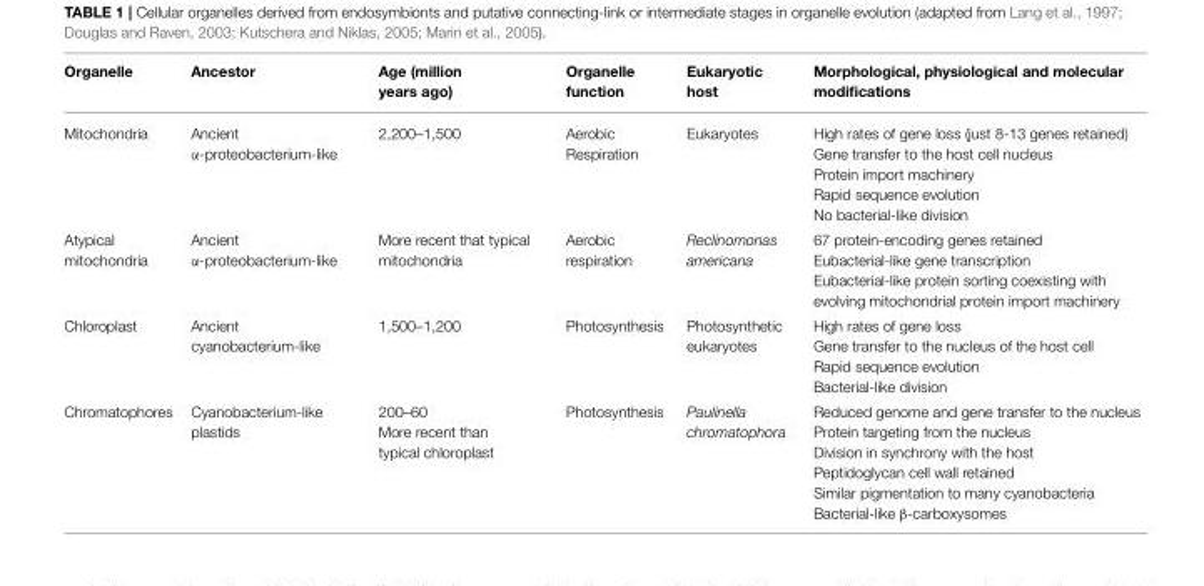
<table><thead><tr><td>Organelle</td><td>Ancestor</td><td>Age (million years ago)</td><td>Organelle function</td><td>Eukaryotic host</td><td>Morphological, physiological and molecular modifications</td></tr></thead><tbody><tr><td>Mitochondria</td><td>Ancient α-proteobacterium-like</td><td>2,200–1,500</td><td>Aerobic Respiration</td><td>Eukaryotes</td><td>High rates of gene loss (just 8-13 genes retained) Gene transfer to the host cell nucleus Protein import machinery Rapid sequence evolution No bacterial-like division</td></tr><tr><td>Atypical mitochondria</td><td>Ancient α-proteobacterium-like</td><td>More recent that typical mitochondria</td><td>Aerobic respiration</td><td>Reclinomonas americana</td><td>67 protein-encoding genes retained Eubacterial-like gene transcription Eubacterial-like protein sorting coexisting with evolving mitochondrial protein import machinery</td></tr><tr><td>Chloroplast</td><td>Ancient cyanobacterium-like</td><td>1,500–1,200</td><td>Photosynthesis</td><td>Photosynthetic eukaryotes</td><td>High rates of gene loss Gene transfer to the nucleus of the host cell Rapid sequence evolution Bacterial-like division</td></tr><tr><td>Chromatophores</td><td>Cyanobacterium-like plastids</td><td>200–60 More recent than typical chloroplast</td><td>Photosynthesis</td><td>Paulinella chromatophora</td><td>Reduced genome and gene transfer to the nucleus Protein targeting from the nucleus Division in synchrony with the host Peptidoglycan cell wall retained Similar pigmentation to many cyanobacteria Bacterial-like β-carboxysomes</td></tr></tbody></table>